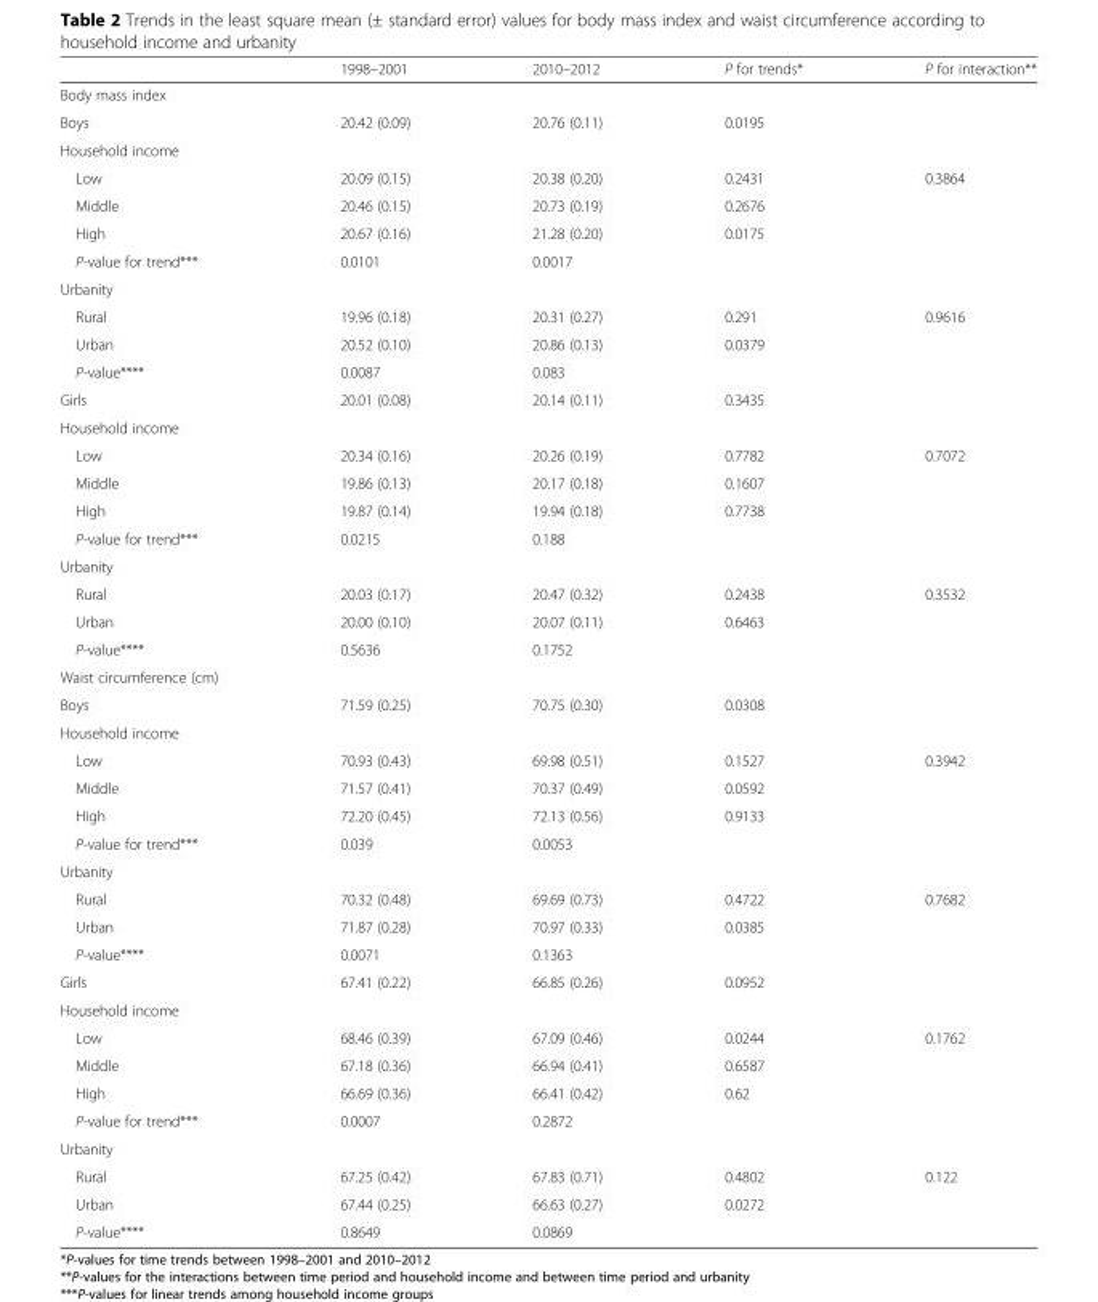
<table><thead><tr><td></td><td>1998–2001</td><td>2010–2012</td><td>P for trends*</td><td>P for interaction**</td></tr></thead><tbody><tr><td colspan="5">Body mass index</td></tr><tr><td>Boys</td><td>20.42 (0.09)</td><td>20.76 (0.11)</td><td>0.0195</td><td></td></tr><tr><td colspan="5">Household income</td></tr><tr><td>Low</td><td>20.09 (0.15)</td><td>20.38 (0.20)</td><td>0.2431</td><td>0.3864</td></tr><tr><td>Middle</td><td>20.46 (0.15)</td><td>20.73 (0.19)</td><td>0.2676</td><td></td></tr><tr><td>High</td><td>20.67 (0.16)</td><td>21.28 (0.20)</td><td>0.0175</td><td></td></tr><tr><td>P-value for trend***</td><td>0.0101</td><td>0.0017</td><td></td><td></td></tr><tr><td colspan="5">Urbanity</td></tr><tr><td>Rural</td><td>19.96 (0.18)</td><td>20.31 (0.27)</td><td>0.291</td><td>0.9616</td></tr><tr><td>Urban</td><td>20.52 (0.10)</td><td>20.86 (0.13)</td><td>0.0379</td><td></td></tr><tr><td>P-value****</td><td>0.0087</td><td>0.083</td><td></td><td></td></tr><tr><td>Girls</td><td>20.01 (0.08)</td><td>20.14 (0.11)</td><td>0.3435</td><td></td></tr><tr><td colspan="5">Household income</td></tr><tr><td>Low</td><td>20.34 (0.16)</td><td>20.26 (0.19)</td><td>0.7782</td><td>0.7072</td></tr><tr><td>Middle</td><td>19.86 (0.13)</td><td>20.17 (0.18)</td><td>0.1607</td><td></td></tr><tr><td>High</td><td>19.87 (0.14)</td><td>19.94 (0.18)</td><td>0.7738</td><td></td></tr><tr><td>P-value for trend***</td><td>0.0215</td><td>0.188</td><td></td><td></td></tr><tr><td colspan="5">Urbanity</td></tr><tr><td>Rural</td><td>20.03 (0.17)</td><td>20.47 (0.32)</td><td>0.2438</td><td>0.3532</td></tr><tr><td>Urban</td><td>20.00 (0.10)</td><td>20.07 (0.11)</td><td>0.6463</td><td></td></tr><tr><td>P-value****</td><td>0.5636</td><td>0.1752</td><td></td><td></td></tr><tr><td colspan="5">Waist circumference (cm)</td></tr><tr><td>Boys</td><td>71.59 (0.25)</td><td>70.75 (0.30)</td><td>0.0308</td><td></td></tr><tr><td colspan="5">Household income</td></tr><tr><td>Low</td><td>70.93 (0.43)</td><td>69.98 (0.51)</td><td>0.1527</td><td>0.3942</td></tr><tr><td>Middle</td><td>71.57 (0.41)</td><td>70.37 (0.49)</td><td>0.0592</td><td></td></tr><tr><td>High</td><td>72.20 (0.45)</td><td>72.13 (0.56)</td><td>0.9133</td><td></td></tr><tr><td>P-value for trend***</td><td>0.039</td><td>0.0053</td><td></td><td></td></tr><tr><td colspan="5">Urbanity</td></tr><tr><td>Rural</td><td>70.32 (0.48)</td><td>69.69 (0.73)</td><td>0.4722</td><td>0.7682</td></tr><tr><td>Urban</td><td>71.87 (0.28)</td><td>70.97 (0.33)</td><td>0.0385</td><td></td></tr><tr><td>P-value****</td><td>0.0071</td><td>0.1363</td><td></td><td></td></tr><tr><td>Girls</td><td>67.41 (0.22)</td><td>66.85 (0.26)</td><td>0.0952</td><td></td></tr><tr><td colspan="5">Household income</td></tr><tr><td>Low</td><td>68.46 (0.39)</td><td>67.09 (0.46)</td><td>0.0244</td><td>0.1762</td></tr><tr><td>Middle</td><td>67.18 (0.36)</td><td>66.94 (0.41)</td><td>0.6587</td><td></td></tr><tr><td>High</td><td>66.69 (0.36)</td><td>66.41 (0.42)</td><td>0.62</td><td></td></tr><tr><td>P-value for trend***</td><td>0.0007</td><td>0.2872</td><td></td><td></td></tr><tr><td colspan="5">Urbanity</td></tr><tr><td>Rural</td><td>67.25 (0.42)</td><td>67.83 (0.71)</td><td>0.4802</td><td>0.122</td></tr><tr><td>Urban</td><td>67.44 (0.25)</td><td>66.63 (0.27)</td><td>0.0272</td><td></td></tr><tr><td>P-value****</td><td>0.8649</td><td>0.0869</td><td></td><td></td></tr></tbody></table>